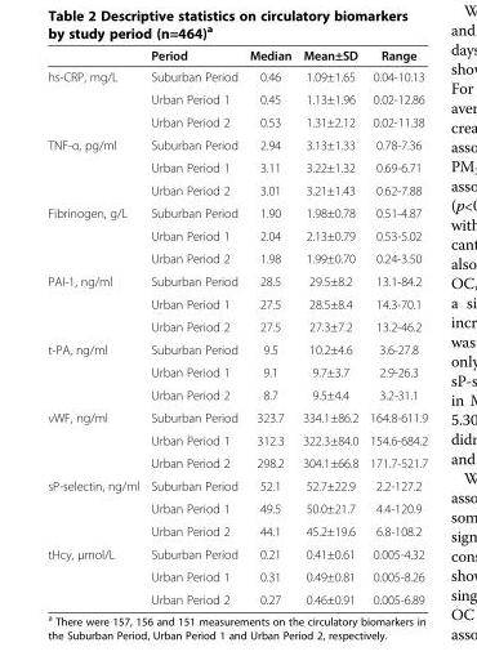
<table><thead><tr><td></td><td>Period</td><td>Median</td><td>Mean±SD</td><td>Range</td></tr></thead><tbody><tr><td rowspan="3">hs-CRP, mg/L</td><td>Suburban Period</td><td>0.46</td><td>1.09±1.65</td><td>0.04-10.13</td></tr><tr><td>Urban Period 1</td><td>0.45</td><td>1.13±1.96</td><td>0.02-12.86</td></tr><tr><td>Urban Period 2</td><td>0.53</td><td>1.31±2.12</td><td>0.02-11.38</td></tr><tr><td rowspan="3">TNF-α, pg/ml</td><td>Suburban Period</td><td>2.94</td><td>3.13±1.33</td><td>0.78-7.36</td></tr><tr><td>Urban Period 1</td><td>3.11</td><td>3.22±1.32</td><td>0.69-6.71</td></tr><tr><td>Urban Period 2</td><td>3.01</td><td>3.21±1.43</td><td>0.62-7.88</td></tr><tr><td rowspan="3">Fibrinogen, g/L</td><td>Suburban Period</td><td>1.90</td><td>1.98±0.78</td><td>0.51-4.87</td></tr><tr><td>Urban Period 1</td><td>2.04</td><td>2.13±0.79</td><td>0.53-5.02</td></tr><tr><td>Urban Period 2</td><td>1.98</td><td>1.99±0.70</td><td>0.24-3.50</td></tr><tr><td rowspan="3">PAI-1, ng/ml</td><td>Suburban Period</td><td>28.5</td><td>29.5±8.2</td><td>13.1-84.2</td></tr><tr><td>Urban Period 1</td><td>27.5</td><td>28.5±8.4</td><td>14.3-70.1</td></tr><tr><td>Urban Period 2</td><td>27.5</td><td>27.3±7.2</td><td>13.2-46.2</td></tr><tr><td rowspan="3">t-PA, ng/ml</td><td>Suburban Period</td><td>9.5</td><td>10.2±4.6</td><td>3.6-27.8</td></tr><tr><td>Urban Period 1</td><td>9.1</td><td>9.7±3.7</td><td>2.9-26.3</td></tr><tr><td>Urban Period 2</td><td>8.7</td><td>9.5±4.4</td><td>3.2-31.1</td></tr><tr><td rowspan="3">vWF, ng/ml</td><td>Suburban Period</td><td>323.7</td><td>334.1±86.2</td><td>164.8-611.9</td></tr><tr><td>Urban Period 1</td><td>312.3</td><td>322.3±84.0</td><td>154.6-684.2</td></tr><tr><td>Urban Period 2</td><td>298.2</td><td>304.1±66.8</td><td>171.7-521.7</td></tr><tr><td rowspan="3">sP-selectin, ng/ml</td><td>Suburban Period</td><td>52.1</td><td>52.7±22.9</td><td>2.2-127.2</td></tr><tr><td>Urban Period 1</td><td>49.5</td><td>50.0±21.7</td><td>4.4-120.9</td></tr><tr><td>Urban Period 2</td><td>44.1</td><td>45.2±19.6</td><td>6.8-108.2</td></tr><tr><td rowspan="3">tHcy, μmol/L</td><td>Suburban Period</td><td>0.21</td><td>0.41±0.61</td><td>0.005-4.32</td></tr><tr><td>Urban Period 1</td><td>0.31</td><td>0.49±0.81</td><td>0.005-8.26</td></tr><tr><td>Urban Period 2</td><td>0.27</td><td>0.46±0.91</td><td>0.005-6.89</td></tr></tbody></table>